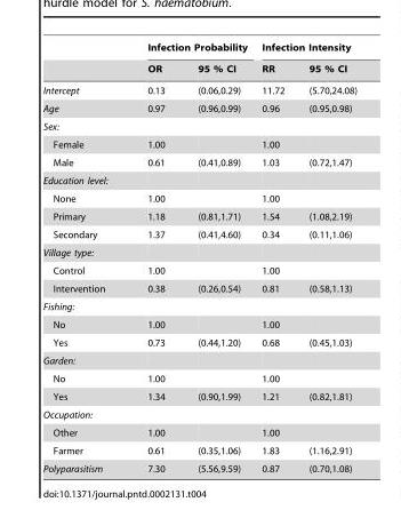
<table><thead><tr><td rowspan="2"></td><td colspan="2">Infection Probability</td><td colspan="2">Infection Intensity</td></tr><tr><td>OR</td><td>95 % CI</td><td>RR</td><td>95 % CI</td></tr></thead><tbody><tr><td>Intercept</td><td>0.13</td><td>(0.06,0.29)</td><td>11.72</td><td>(5.70,24.08)</td></tr><tr><td>Age</td><td>0.97</td><td>(0.96,0.99)</td><td>0.96</td><td>(0.95,0.98)</td></tr><tr><td colspan="5">Sex:</td></tr><tr><td>Female</td><td>1.00</td><td></td><td>1.00</td><td></td></tr><tr><td>Male</td><td>0.61</td><td>(0.41,0.89)</td><td>1.03</td><td>(0.72,1.47)</td></tr><tr><td colspan="5">Education level:</td></tr><tr><td>None</td><td>1.00</td><td></td><td>1.00</td><td></td></tr><tr><td>Primary</td><td>1.18</td><td>(0.81,1.71)</td><td>1.54</td><td>(1.08,2.19)</td></tr><tr><td>Secondary</td><td>1.37</td><td>(0.41,4.60)</td><td>0.34</td><td>(0.11,1.06)</td></tr><tr><td colspan="5">Village type:</td></tr><tr><td>Control</td><td>1.00</td><td></td><td>1.00</td><td></td></tr><tr><td>Intervention</td><td>0.38</td><td>(0.26,0.54)</td><td>0.81</td><td>(0.58,1.13)</td></tr><tr><td colspan="5">Fishing:</td></tr><tr><td>No</td><td>1.00</td><td></td><td>1.00</td><td></td></tr><tr><td>Yes</td><td>0.73</td><td>(0.44,1.20)</td><td>0.68</td><td>(0.45,1.03)</td></tr><tr><td colspan="5">Garden:</td></tr><tr><td>No</td><td>1.00</td><td></td><td>1.00</td><td></td></tr><tr><td>Yes</td><td>1.34</td><td>(0.90,1.99)</td><td>1.21</td><td>(0.82,1.81)</td></tr><tr><td colspan="5">Occupation:</td></tr><tr><td>Other</td><td>1.00</td><td></td><td>1.00</td><td></td></tr><tr><td>Farmer</td><td>0.61</td><td>(0.35,1.06)</td><td>1.83</td><td>(1.16,2.91)</td></tr><tr><td>Polyparasitism</td><td>7.30</td><td>(5.56,9.59)</td><td>0.87</td><td>(0.70,1.08)</td></tr></tbody></table>